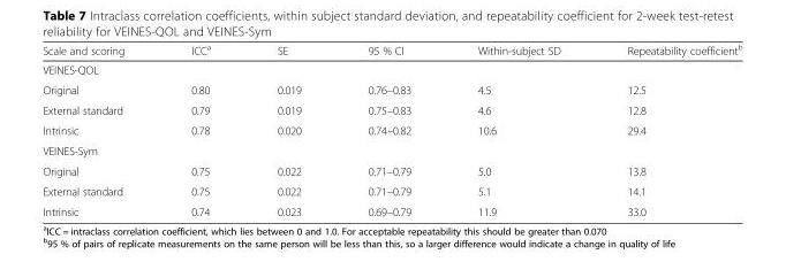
<table><thead><tr><td>Scale and scoring</td><td>ICC<sup>a</sup></td><td>SE</td><td>95 % CI</td><td>Within-subject SD</td><td>Repeatability coefficient<sup>b</sup></td></tr></thead><tbody><tr><td colspan="6">VEINES-QOL</td></tr><tr><td>Original</td><td>0.80</td><td>0.019</td><td>0.76–0.83</td><td>4.5</td><td>12.5</td></tr><tr><td>External standard</td><td>0.79</td><td>0.019</td><td>0.75–0.83</td><td>4.6</td><td>12.8</td></tr><tr><td>Intrinsic</td><td>0.78</td><td>0.020</td><td>0.74–0.82</td><td>10.6</td><td>29.4</td></tr><tr><td colspan="6">VEINES-Sym</td></tr><tr><td>Original</td><td>0.75</td><td>0.022</td><td>0.71–0.79</td><td>5.0</td><td>13.8</td></tr><tr><td>External standard</td><td>0.75</td><td>0.022</td><td>0.71–0.79</td><td>5.1</td><td>14.1</td></tr><tr><td>Intrinsic</td><td>0.74</td><td>0.023</td><td>0.69–0.79</td><td>11.9</td><td>33.0</td></tr></tbody></table>